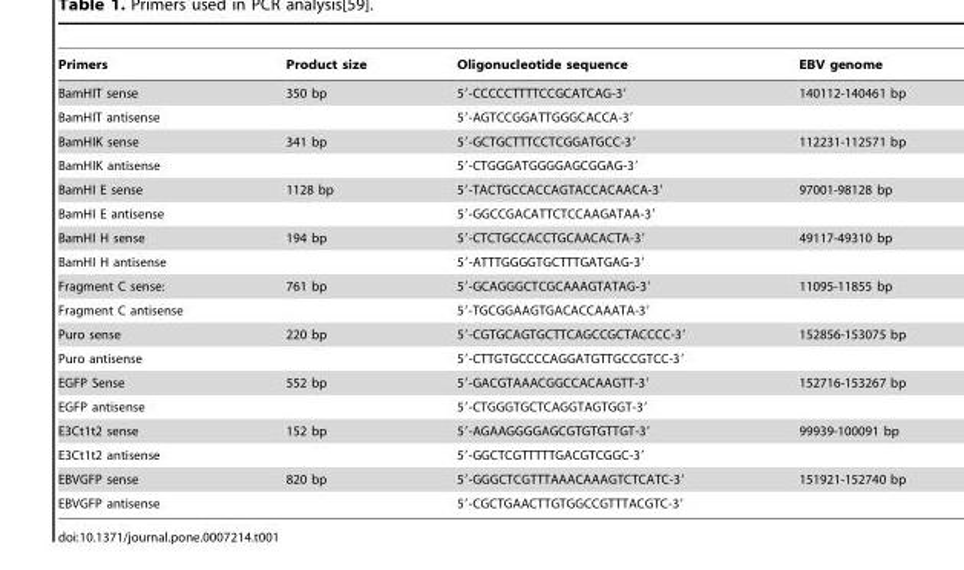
<table><thead><tr><td>Primers</td><td>Product size</td><td>Oligonucleotide sequence</td><td>EBV genome</td></tr></thead><tbody><tr><td>BamHIT sense</td><td>350 bp</td><td>5′-CCCCCTTTTCCGCATCAG-3′</td><td>140112-140461 bp</td></tr><tr><td>BamHIT antisense</td><td></td><td>5′-AGTCCGGATTGGGCACCA-3′</td><td></td></tr><tr><td>BamHIK sense</td><td>341 bp</td><td>5′-GCTGCTTTCCTCGGATGCC-3′</td><td>112231-112571 bp</td></tr><tr><td>BamHIK antisense</td><td></td><td>5′-CTGGGATGGGGAGCGGAG-3′</td><td></td></tr><tr><td>BamHI E sense</td><td>1128 bp</td><td>5′-TACTGCCACCAGTACCACAACA-3′</td><td>97001-98128 bp</td></tr><tr><td>BamHI E antisense</td><td></td><td>5′-GGCCGACATTCTCCAAGATAA-3′</td><td></td></tr><tr><td>BamHI H sense</td><td>194 bp</td><td>5′-CTCTGCCACCTGCAACACTA-3′</td><td>49117-49310 bp</td></tr><tr><td>BamHI H antisense</td><td></td><td>5′-ATTTGGGGTGCTTTGATGAG-3′</td><td></td></tr><tr><td>Fragment C sense:</td><td>761 bp</td><td>5′-GCAGGGCTCGCAAAGTATAG-3′</td><td>11095-11855 bp</td></tr><tr><td>Fragment C antisense</td><td></td><td>5′-TGCGGAAGTGACACCAAATA-3′</td><td></td></tr><tr><td>Puro sense</td><td>220 bp</td><td>5′-CGTGCAGTGCTTCAGCCGCTACCCC-3′</td><td>152856-153075 bp</td></tr><tr><td>Puro antisense</td><td></td><td>5′-CTTGTGCCCCAGGATGTTGCCGTCC-3′</td><td></td></tr><tr><td>EGFP Sense</td><td>552 bp</td><td>5′-GACGTAAACGGCCACAAGTT-3′</td><td>152716-153267 bp</td></tr><tr><td>EGFP antisense</td><td></td><td>5′-CTGGGTGCTCAGGTAGTGGT-3′</td><td></td></tr><tr><td>E3Ct1t2 sense</td><td>152 bp</td><td>5′-AGAAGGGGAGCGTGTGTTGT-3′</td><td>99939-100091 bp</td></tr><tr><td>E3Ct1t2 antisense</td><td></td><td>5′-GGCTCGTTTTTGACGTCGGC-3′</td><td></td></tr><tr><td>EBVGFP sense</td><td>820 bp</td><td>5′-GGGCTCGTTTAAACAAAGTCTCATC-3′</td><td>151921-152740 bp</td></tr><tr><td>EBVGFP antisense</td><td></td><td>5′-CGCTGAACTTGTGGCCGTTTACGTC-3′</td><td></td></tr></tbody></table>